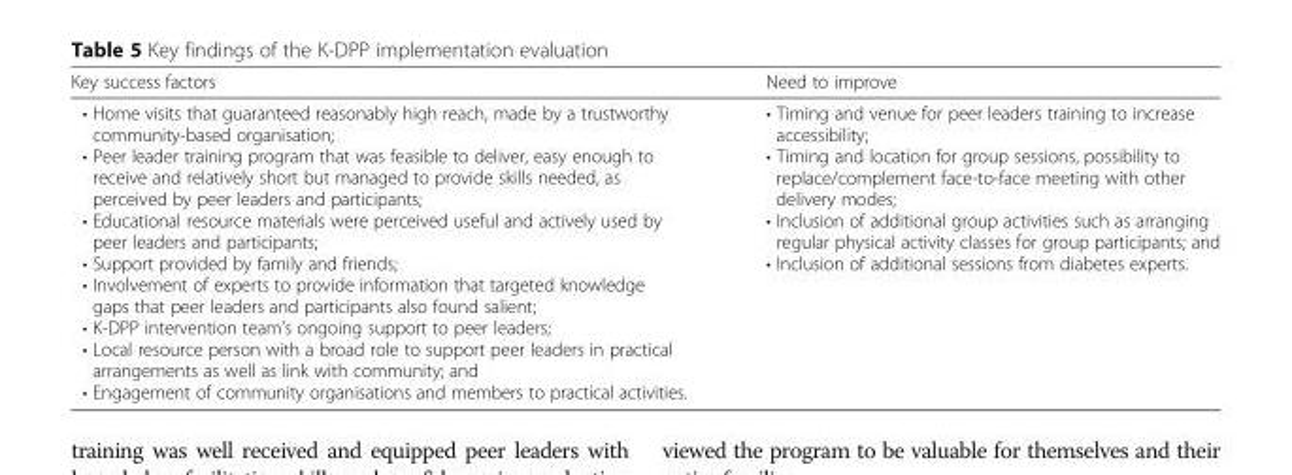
<table><thead><tr><td>Key success factors</td><td>Need to improve</td></tr></thead><tbody><tr><td>• Home visits that guaranteed reasonably high reach, made by a trustworthy community-based organisation; • Peer leader training program that was feasible to deliver, easy enough to receive and relatively short but managed to provide skills needed, as perceived by peer leaders and participants; • Educational resource materials were perceived useful and actively used by peer leaders and participants; • Support provided by family and friends; • Involvement of experts to provide information that targeted knowledge gaps that peer leaders and participants also found salient; • K-DPP intervention team’s ongoing support to peer leaders; • Local resource person with a broad role to support peer leaders in practical arrangements as well as link with community; and • Engagement of community organisations and members to practical activities.</td><td>• Timing and venue for peer leaders training to increase accessibility; • Timing and location for group sessions, possibility to replace/complement face-to-face meeting with other delivery modes; • Inclusion of additional group activities such as arranging regular physical activity classes for group participants; and • Inclusion of additional sessions from diabetes experts.</td></tr></tbody></table>